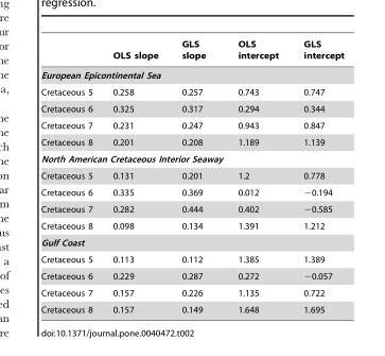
<table><thead><tr><td></td><td>OLS slope</td><td>GLS slope</td><td>OLS intercept</td><td>GLS intercept</td></tr></thead><tbody><tr><td colspan="5">European Epicontinental Sea</td></tr><tr><td>Cretaceous 5</td><td>0.258</td><td>0.257</td><td>0.743</td><td>0.747</td></tr><tr><td>Cretaceous 6</td><td>0.325</td><td>0.317</td><td>0.294</td><td>0.344</td></tr><tr><td>Cretaceous 7</td><td>0.231</td><td>0.247</td><td>0.943</td><td>0.847</td></tr><tr><td>Cretaceous 8</td><td>0.201</td><td>0.208</td><td>1.189</td><td>1.139</td></tr><tr><td colspan="5">North American Cretaceous Interior Seaway</td></tr><tr><td>Cretaceous 5</td><td>0.131</td><td>0.201</td><td>1.2</td><td>0.778</td></tr><tr><td>Cretaceous 6</td><td>0.335</td><td>0.369</td><td>0.012</td><td>−0.194</td></tr><tr><td>Cretaceous 7</td><td>0.282</td><td>0.444</td><td>0.402</td><td>−0.585</td></tr><tr><td>Cretaceous 8</td><td>0.098</td><td>0.134</td><td>1.391</td><td>1.212</td></tr><tr><td colspan="5">Gulf Coast</td></tr><tr><td>Cretaceous 5</td><td>0.113</td><td>0.112</td><td>1.385</td><td>1.389</td></tr><tr><td>Cretaceous 6</td><td>0.229</td><td>0.287</td><td>0.272</td><td>−0.057</td></tr><tr><td>Cretaceous 7</td><td>0.157</td><td>0.226</td><td>1.135</td><td>0.722</td></tr><tr><td>Cretaceous 8</td><td>0.157</td><td>0.149</td><td>1.648</td><td>1.695</td></tr></tbody></table>